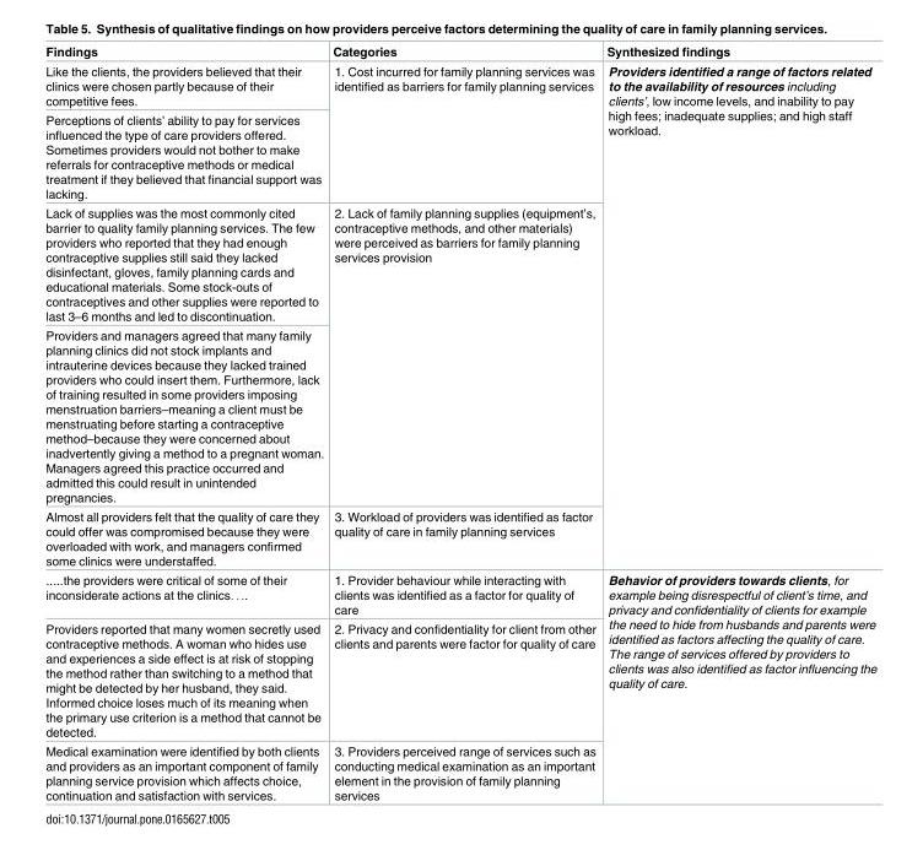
<table><thead><tr><td>Findings</td><td>Categories</td><td>Synthesized findings</td></tr></thead><tbody><tr><td>Like the clients, the providers believed that their clinics were chosen partly because of their competitive fees.</td><td rowspan="2">1. Cost incurred for family planning services was identified as barriers for family planning services</td><td rowspan="5">Providers identified a range of factors related to the availability of resources including clients’, low income levels, and inability to pay high fees; inadequate supplies; and high staff workload.</td></tr><tr><td>Perceptions of clients’ ability to pay for services influenced the type of care providers offered. Sometimes providers would not bother to make referrals for contraceptive methods or medical treatment if they believed that financial support was lacking.</td></tr><tr><td>Lack of supplies was the most commonly cited barrier to quality family planning services. The few providers who reported that they had enough contraceptive supplies still said they lacked disinfectant, gloves, family planning cards and educational materials. Some stock-outs of contraceptives and other supplies were reported to last 3–6 months and led to discontinuation.</td><td rowspan="2">2. Lack of family planning supplies (equipment’s, contraceptive methods, and other materials) were perceived as barriers for family planning services provision</td></tr><tr><td>Providers and managers agreed that many family planning clinics did not stock implants and intrauterine devices because they lacked trained providers who could insert them. Furthermore, lack of training resulted in some providers imposing menstruation barriers–meaning a client must be menstruating before starting a contraceptive method–because they were concerned about inadvertently giving a method to a pregnant woman. Managers agreed this practice occurred and admitted this could result in unintended pregnancies.</td></tr><tr><td>Almost all providers felt that the quality of care they could offer was compromised because they were overloaded with work, and managers confirmed some clinics were understaffed.</td><td>3. Workload of providers was identified as factor quality of care in family planning services</td></tr><tr><td>.....the providers were critical of some of their inconsiderate actions at the clinics. . ..</td><td>1. Provider behaviour while interacting with clients was identified as a factor for quality of care</td><td rowspan="3">Behavior of providers towards clients, for example being disrespectful of client’s time, and privacy and confidentiality of clients for example the need to hide from husbands and parents were identified as factors affecting the quality of care. The range of services offered by providers to clients was also identified as factor influencing the quality of care.</td></tr><tr><td>Providers reported that many women secretly used contraceptive methods. A woman who hides use and experiences a side effect is at risk of stopping the method rather than switching to a method that might be detected by her husband, they said. Informed choice loses much of its meaning when the primary use criterion is a method that cannot be detected.</td><td>2. Privacy and confidentiality for client from other clients and parents were factor for quality of care</td></tr><tr><td>Medical examination were identified by both clients and providers as an important component of family planning service provision which affects choice, continuation and satisfaction with services.</td><td>3. Providers perceived range of services such as conducting medical examination as an important element in the provision of family planning services</td></tr></tbody></table>